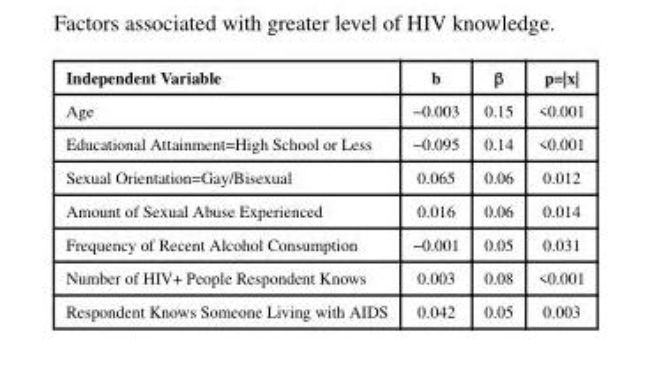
<table><thead><tr><td>Independent Variable</td><td>b</td><td>β</td><td>p=|x|</td></tr></thead><tbody><tr><td>Age</td><td>−0.003</td><td>0.15</td><td>&lt;0.001</td></tr><tr><td>Educational Attainment=High School or Less</td><td>−0.095</td><td>0.14</td><td>&lt;0.001</td></tr><tr><td>Sexual Orientation=Gay/Bisexual</td><td>0.065</td><td>0.06</td><td>0.012</td></tr><tr><td>Amount of Sexual Abuse Experienced</td><td>0.016</td><td>0.06</td><td>0.014</td></tr><tr><td>Frequency of Recent Alcohol Consumption</td><td>−0.001</td><td>0.05</td><td>0.031</td></tr><tr><td>Number of HIV+ People Respondent Knows</td><td>0.003</td><td>0.08</td><td>&lt;0.001</td></tr><tr><td>Respondent Knows Someone Living with AIDS</td><td>0.042</td><td>0.05</td><td>0.003</td></tr></tbody></table>